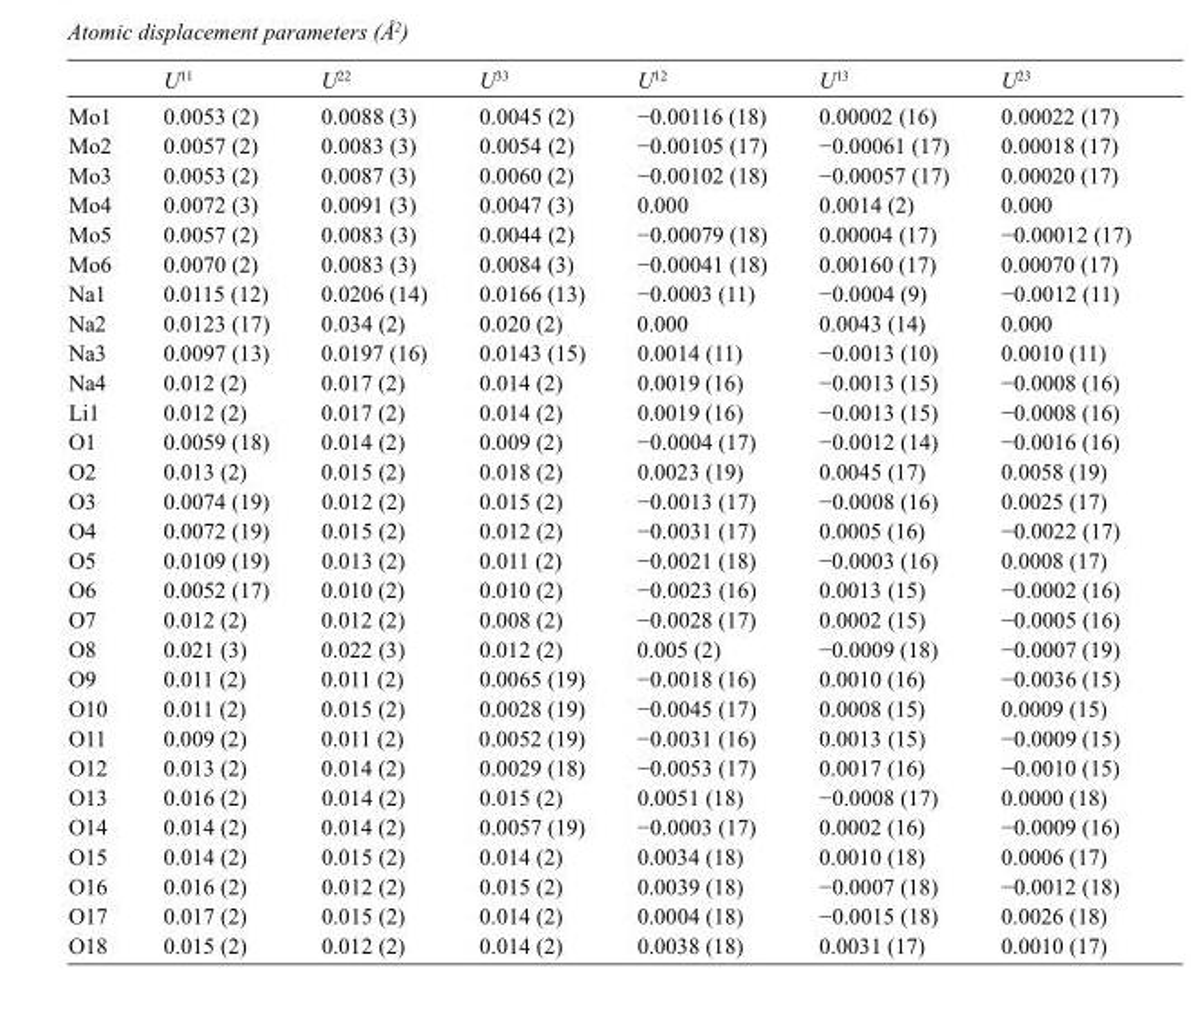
<table><thead><tr><td></td><td>U<sup>11</sup></td><td>U<sup>22</sup></td><td>U<sup>33</sup></td><td>U<sup>12</sup></td><td>U<sup>13</sup></td><td>U<sup>23</sup></td></tr></thead><tbody><tr><td>Mo1</td><td>0.0053 (2)</td><td>0.0088 (3)</td><td>0.0045 (2)</td><td>−0.00116 (18)</td><td>0.00002 (16)</td><td>0.00022 (17)</td></tr><tr><td>Mo2</td><td>0.0057 (2)</td><td>0.0083 (3)</td><td>0.0054 (2)</td><td>−0.00105 (17)</td><td>−0.00061 (17)</td><td>0.00018 (17)</td></tr><tr><td>Mo3</td><td>0.0053 (2)</td><td>0.0087 (3)</td><td>0.0060 (2)</td><td>−0.00102 (18)</td><td>−0.00057 (17)</td><td>0.00020 (17)</td></tr><tr><td>Mo4</td><td>0.0072 (3)</td><td>0.0091 (3)</td><td>0.0047 (3)</td><td>0.000</td><td>0.0014 (2)</td><td>0.000</td></tr><tr><td>Mo5</td><td>0.0057 (2)</td><td>0.0083 (3)</td><td>0.0044 (2)</td><td>−0.00079 (18)</td><td>0.00004 (17)</td><td>−0.00012 (17)</td></tr><tr><td>Mo6</td><td>0.0070 (2)</td><td>0.0083 (3)</td><td>0.0084 (3)</td><td>−0.00041 (18)</td><td>0.00160 (17)</td><td>0.00070 (17)</td></tr><tr><td>Na1</td><td>0.0115 (12)</td><td>0.0206 (14)</td><td>0.0166 (13)</td><td>−0.0003 (11)</td><td>−0.0004 (9)</td><td>−0.0012 (11)</td></tr><tr><td>Na2</td><td>0.0123 (17)</td><td>0.034 (2)</td><td>0.020 (2)</td><td>0.000</td><td>0.0043 (14)</td><td>0.000</td></tr><tr><td>Na3</td><td>0.0097 (13)</td><td>0.0197 (16)</td><td>0.0143 (15)</td><td>0.0014 (11)</td><td>−0.0013 (10)</td><td>0.0010 (11)</td></tr><tr><td>Na4</td><td>0.012 (2)</td><td>0.017 (2)</td><td>0.014 (2)</td><td>0.0019 (16)</td><td>−0.0013 (15)</td><td>−0.0008 (16)</td></tr><tr><td>Li1</td><td>0.012 (2)</td><td>0.017 (2)</td><td>0.014 (2)</td><td>0.0019 (16)</td><td>−0.0013 (15)</td><td>−0.0008 (16)</td></tr><tr><td>O1</td><td>0.0059 (18)</td><td>0.014 (2)</td><td>0.009 (2)</td><td>−0.0004 (17)</td><td>−0.0012 (14)</td><td>−0.0016 (16)</td></tr><tr><td>O2</td><td>0.013 (2)</td><td>0.015 (2)</td><td>0.018 (2)</td><td>0.0023 (19)</td><td>0.0045 (17)</td><td>0.0058 (19)</td></tr><tr><td>O3</td><td>0.0074 (19)</td><td>0.012 (2)</td><td>0.015 (2)</td><td>−0.0013 (17)</td><td>−0.0008 (16)</td><td>0.0025 (17)</td></tr><tr><td>O4</td><td>0.0072 (19)</td><td>0.015 (2)</td><td>0.012 (2)</td><td>−0.0031 (17)</td><td>0.0005 (16)</td><td>−0.0022 (17)</td></tr><tr><td>O5</td><td>0.0109 (19)</td><td>0.013 (2)</td><td>0.011 (2)</td><td>−0.0021 (18)</td><td>−0.0003 (16)</td><td>0.0008 (17)</td></tr><tr><td>O6</td><td>0.0052 (17)</td><td>0.010 (2)</td><td>0.010 (2)</td><td>−0.0023 (16)</td><td>0.0013 (15)</td><td>−0.0002 (16)</td></tr><tr><td>O7</td><td>0.012 (2)</td><td>0.012 (2)</td><td>0.008 (2)</td><td>−0.0028 (17)</td><td>0.0002 (15)</td><td>−0.0005 (16)</td></tr><tr><td>O8</td><td>0.021 (3)</td><td>0.022 (3)</td><td>0.012 (2)</td><td>0.005 (2)</td><td>−0.0009 (18)</td><td>−0.0007 (19)</td></tr><tr><td>O9</td><td>0.011 (2)</td><td>0.011 (2)</td><td>0.0065 (19)</td><td>−0.0018 (16)</td><td>0.0010 (16)</td><td>−0.0036 (15)</td></tr><tr><td>O10</td><td>0.011 (2)</td><td>0.015 (2)</td><td>0.0028 (19)</td><td>−0.0045 (17)</td><td>0.0008 (15)</td><td>0.0009 (15)</td></tr><tr><td>O11</td><td>0.009 (2)</td><td>0.011 (2)</td><td>0.0052 (19)</td><td>−0.0031 (16)</td><td>0.0013 (15)</td><td>−0.0009 (15)</td></tr><tr><td>O12</td><td>0.013 (2)</td><td>0.014 (2)</td><td>0.0029 (18)</td><td>−0.0053 (17)</td><td>0.0017 (16)</td><td>−0.0010 (15)</td></tr><tr><td>O13</td><td>0.016 (2)</td><td>0.014 (2)</td><td>0.015 (2)</td><td>0.0051 (18)</td><td>−0.0008 (17)</td><td>0.0000 (18)</td></tr><tr><td>O14</td><td>0.014 (2)</td><td>0.014 (2)</td><td>0.0057 (19)</td><td>−0.0003 (17)</td><td>0.0002 (16)</td><td>−0.0009 (16)</td></tr><tr><td>O15</td><td>0.014 (2)</td><td>0.015 (2)</td><td>0.014 (2)</td><td>0.0034 (18)</td><td>0.0010 (18)</td><td>0.0006 (17)</td></tr><tr><td>O16</td><td>0.016 (2)</td><td>0.012 (2)</td><td>0.015 (2)</td><td>0.0039 (18)</td><td>−0.0007 (18)</td><td>−0.0012 (18)</td></tr><tr><td>O17</td><td>0.017 (2)</td><td>0.015 (2)</td><td>0.014 (2)</td><td>0.0004 (18)</td><td>−0.0015 (18)</td><td>0.0026 (18)</td></tr><tr><td>O18</td><td>0.015 (2)</td><td>0.012 (2)</td><td>0.014 (2)</td><td>0.0038 (18)</td><td>0.0031 (17)</td><td>0.0010 (17)</td></tr></tbody></table>